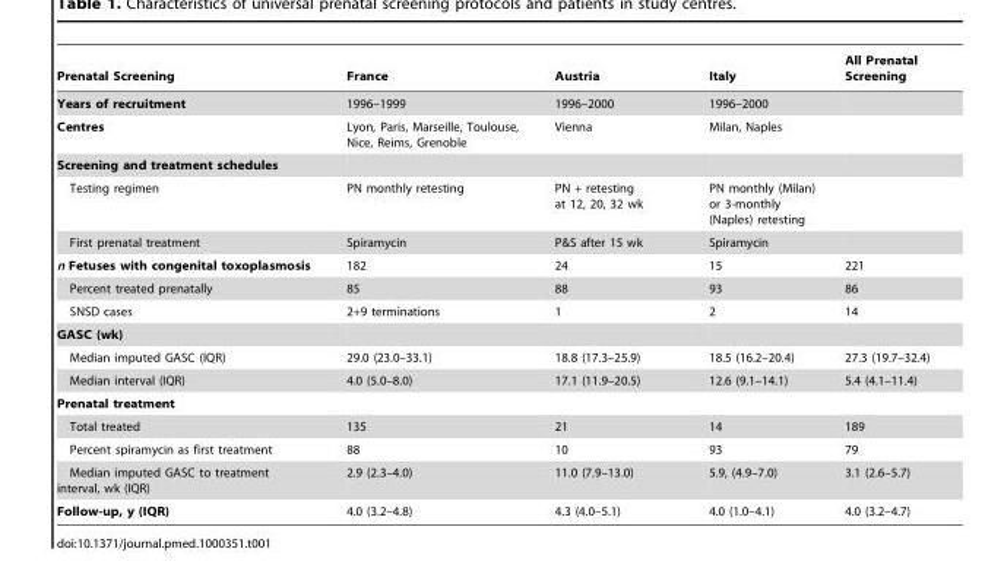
<table><thead><tr><td>Prenatal Screening</td><td>France</td><td>Austria</td><td>Italy</td><td>All Prenatal Screening</td></tr></thead><tbody><tr><td>Years of recruitment</td><td>1996–1999</td><td>1996–2000</td><td>1996–2000</td><td></td></tr><tr><td>Centres</td><td>Lyon, Paris, Marseille, Toulouse, Nice, Reims, Grenoble</td><td>Vienna</td><td>Milan, Naples</td><td></td></tr><tr><td colspan="5">Screening and treatment schedules</td></tr><tr><td>Testing regimen</td><td>PN monthly retesting</td><td>PN + retesting at 12, 20, 32 wk</td><td>PN monthly (Milan) or 3-monthly (Naples) retesting</td><td></td></tr><tr><td>First prenatal treatment</td><td>Spiramycin</td><td>P&amp;S after 15 wk</td><td>Spiramycin</td><td></td></tr><tr><td>n Fetuses with congenital toxoplasmosis</td><td>182</td><td>24</td><td>15</td><td>221</td></tr><tr><td>Percent treated prenatally</td><td>85</td><td>88</td><td>93</td><td>86</td></tr><tr><td>SNSD cases</td><td>2+9 terminations</td><td>1</td><td>2</td><td>14</td></tr><tr><td colspan="5">GASC (wk)</td></tr><tr><td>Median imputed GASC (IQR)</td><td>29.0 (23.0–33.1)</td><td>18.8 (17.3–25.9)</td><td>18.5 (16.2–20.4)</td><td>27.3 (19.7–32.4)</td></tr><tr><td>Median interval (IQR)</td><td>4.0 (5.0–8.0)</td><td>17.1 (11.9–20.5)</td><td>12.6 (9.1–14.1)</td><td>5.4 (4.1–11.4)</td></tr><tr><td colspan="5">Prenatal treatment</td></tr><tr><td>Total treated</td><td>135</td><td>21</td><td>14</td><td>189</td></tr><tr><td>Percent spiramycin as first treatment</td><td>88</td><td>10</td><td>93</td><td>79</td></tr><tr><td>Median imputed GASC to treatment interval, wk (IQR)</td><td>2.9 (2.3–4.0)</td><td>11.0 (7.9–13.0)</td><td>5.9, (4.9–7.0)</td><td>3.1 (2.6–5.7)</td></tr><tr><td>Follow-up, y (IQR)</td><td>4.0 (3.2–4.8)</td><td>4.3 (4.0–5.1)</td><td>4.0 (1.0–4.1)</td><td>4.0 (3.2–4.7)</td></tr></tbody></table>